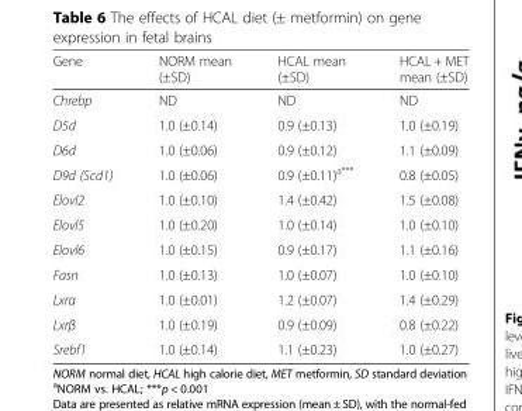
<table><thead><tr><td>Gene</td><td>NORM mean (±SD)</td><td>HCAL mean (±SD)</td><td>HCAL + MET mean (±SD)</td></tr></thead><tbody><tr><td>Chrebp</td><td>ND</td><td>ND</td><td>ND</td></tr><tr><td>D5d</td><td>1.0 (±0.14)</td><td>0.9 (±0.13)</td><td>1.0 (±0.19)</td></tr><tr><td>D6d</td><td>1.0 (±0.06)</td><td>0.9 (±0.12)</td><td>1.1 (±0.09)</td></tr><tr><td>D9d (Scd1)</td><td>1.0 (±0.06)</td><td>0.9 (±0.11)<sup>a***</sup></td><td>0.8 (±0.05)</td></tr><tr><td>Elovl2</td><td>1.0 (±0.10)</td><td>1.4 (±0.42)</td><td>1.5 (±0.08)</td></tr><tr><td>Elovl5</td><td>1.0 (±0.20)</td><td>1.0 (±0.14)</td><td>1.0 (±0.10)</td></tr><tr><td>Elovl6</td><td>1.0 (±0.15)</td><td>0.9 (±0.17)</td><td>1.1 (±0.16)</td></tr><tr><td>Fasn</td><td>1.0 (±0.13)</td><td>1.0 (±0.07)</td><td>1.0 (±0.10)</td></tr><tr><td>Lxrα</td><td>1.0 (±0.01)</td><td>1.2 (±0.07)</td><td>1.4 (±0.29)</td></tr><tr><td>Lxrβ</td><td>1.0 (±0.19)</td><td>0.9 (±0.09)</td><td>0.8 (±0.22)</td></tr><tr><td>Srebf1</td><td>1.0 (±0.14)</td><td>1.1 (±0.23)</td><td>1.0 (±0.27)</td></tr></tbody></table>